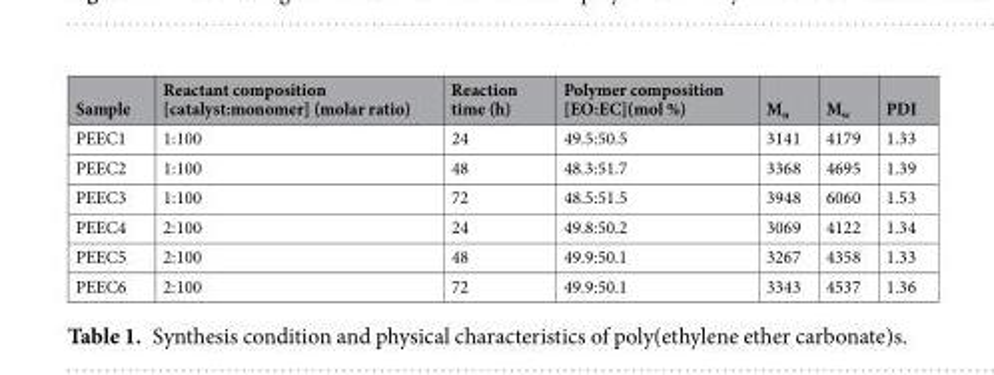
<table><thead><tr><td>Sample</td><td>Reactant composition [catalyst:monomer] (molar ratio)</td><td>Reaction time (h)</td><td>Polymer composition [EO:EC](mol %)</td><td>M<sub>n</sub></td><td>M<sub>w</sub></td><td>PDI</td></tr></thead><tbody><tr><td>PEEC1</td><td>1:100</td><td>24</td><td>49.5:50.5</td><td>3141</td><td>4179</td><td>1.33</td></tr><tr><td>PEEC2</td><td>1:100</td><td>48</td><td>48.3:51.7</td><td>3368</td><td>4695</td><td>1.39</td></tr><tr><td>PEEC3</td><td>1:100</td><td>72</td><td>48.5:51.5</td><td>3948</td><td>6060</td><td>1.53</td></tr><tr><td>PEEC4</td><td>2:100</td><td>24</td><td>49.8:50.2</td><td>3069</td><td>4122</td><td>1.34</td></tr><tr><td>PEEC5</td><td>2:100</td><td>48</td><td>49.9:50.1</td><td>3267</td><td>4358</td><td>1.33</td></tr><tr><td>PEEC6</td><td>2:100</td><td>72</td><td>49.9:50.1</td><td>3343</td><td>4537</td><td>1.36</td></tr></tbody></table>